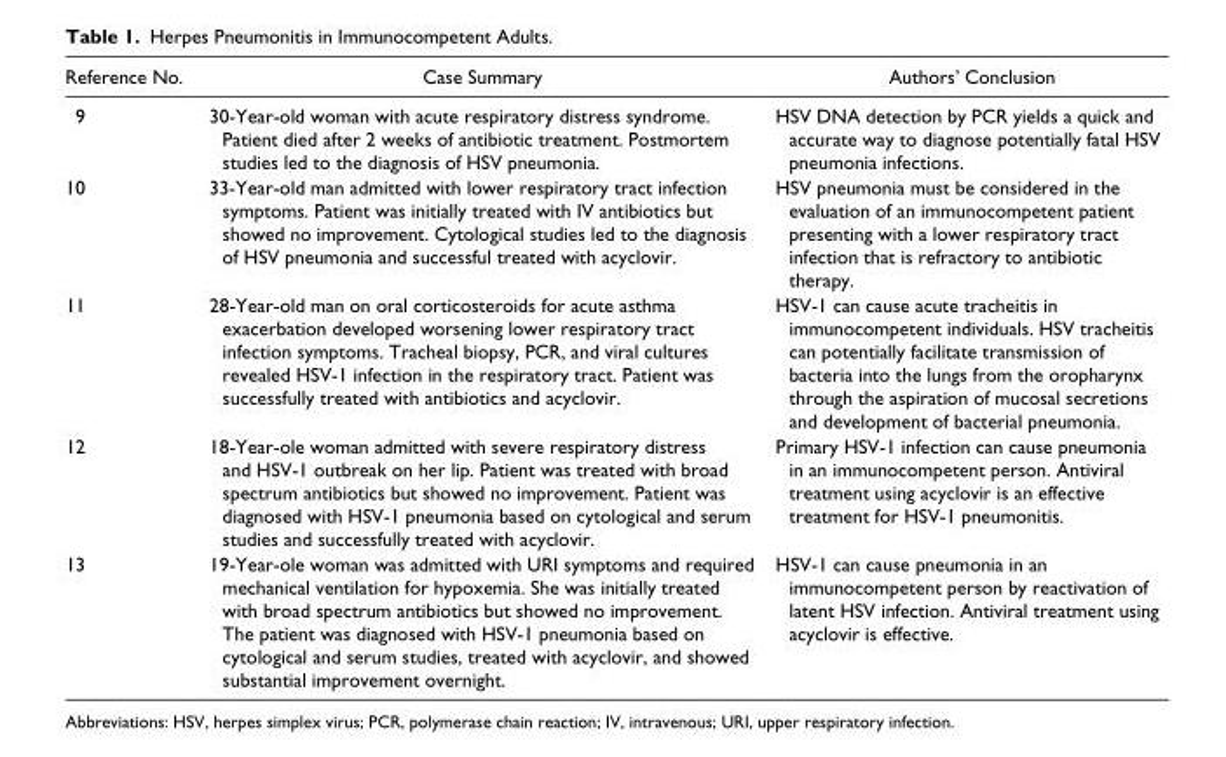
<table><thead><tr><td>Reference No.</td><td>Case Summary</td><td>Authors’ Conclusion</td></tr></thead><tbody><tr><td>9</td><td>30-Year-old woman with acute respiratory distress syndrome. Patient died after 2 weeks of antibiotic treatment. Postmortem studies led to the diagnosis of HSV pneumonia.</td><td>HSV DNA detection by PCR yields a quick and accurate way to diagnose potentially fatal HSV pneumonia infections.</td></tr><tr><td>10</td><td>33-Year-old man admitted with lower respiratory tract infection symptoms. Patient was initially treated with IV antibiotics but showed no improvement. Cytological studies led to the diagnosis of HSV pneumonia and successful treated with acyclovir.</td><td>HSV pneumonia must be considered in the evaluation of an immunocompetent patient presenting with a lower respiratory tract infection that is refractory to antibiotic therapy.</td></tr><tr><td>11</td><td>28-Year-old man on oral corticosteroids for acute asthma exacerbation developed worsening lower respiratory tract infection symptoms. Tracheal biopsy, PCR, and viral cultures revealed HSV-1 infection in the respiratory tract. Patient was successfully treated with antibiotics and acyclovir.</td><td>HSV-1 can cause acute tracheitis in immunocompetent individuals. HSV tracheitis can potentially facilitate transmission of bacteria into the lungs from the oropharynx through the aspiration of mucosal secretions and development of bacterial pneumonia.</td></tr><tr><td>12</td><td>18-Year-ole woman admitted with severe respiratory distress and HSV-1 outbreak on her lip. Patient was treated with broad spectrum antibiotics but showed no improvement. Patient was diagnosed with HSV-1 pneumonia based on cytological and serum studies and successfully treated with acyclovir.</td><td>Primary HSV-1 infection can cause pneumonia in an immunocompetent person. Antiviral treatment using acyclovir is an effective treatment for HSV-1 pneumonitis.</td></tr><tr><td>13</td><td>19-Year-ole woman was admitted with URI symptoms and required mechanical ventilation for hypoxemia. She was initially treated with broad spectrum antibiotics but showed no improvement. The patient was diagnosed with HSV-1 pneumonia based on cytological and serum studies, treated with acyclovir, and showed substantial improvement overnight.</td><td>HSV-1 can cause pneumonia in an immunocompetent person by reactivation of latent HSV infection. Antiviral treatment using acyclovir is effective.</td></tr></tbody></table>